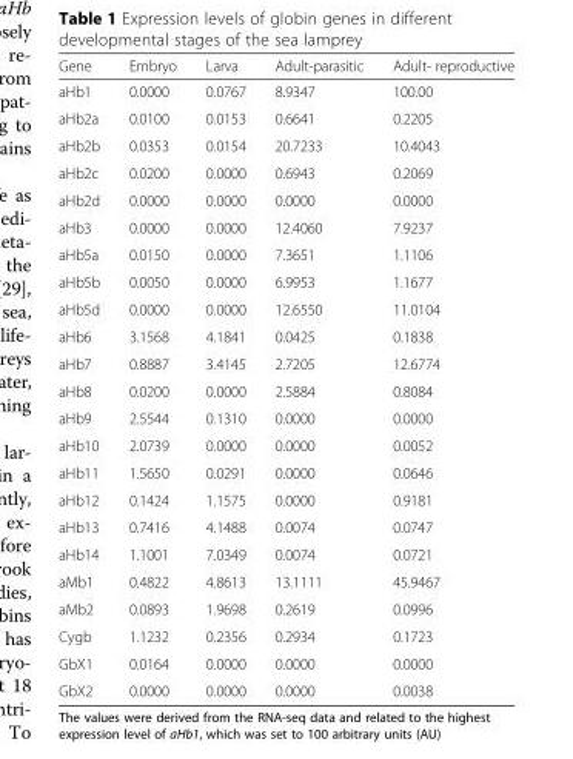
<table><thead><tr><td>Gene</td><td>Embryo</td><td>Larva</td><td>Adult-parasitic</td><td>Adult- reproductive</td></tr></thead><tbody><tr><td>aHb1</td><td>0.0000</td><td>0.0767</td><td>8.9347</td><td>100.00</td></tr><tr><td>aHb2a</td><td>0.0100</td><td>0.0153</td><td>0.6641</td><td>0.2205</td></tr><tr><td>aHb2b</td><td>0.0353</td><td>0.0154</td><td>20.7233</td><td>10.4043</td></tr><tr><td>aHb2c</td><td>0.0200</td><td>0.0000</td><td>0.6943</td><td>0.2069</td></tr><tr><td>aHb2d</td><td>0.0000</td><td>0.0000</td><td>0.0000</td><td>0.0000</td></tr><tr><td>aHb3</td><td>0.0000</td><td>0.0000</td><td>12.4060</td><td>7.9237</td></tr><tr><td>aHb5a</td><td>0.0150</td><td>0.0000</td><td>7.3651</td><td>1.1106</td></tr><tr><td>aHb5b</td><td>0.0050</td><td>0.0000</td><td>6.9953</td><td>1.1677</td></tr><tr><td>aHb5d</td><td>0.0000</td><td>0.0000</td><td>12.6550</td><td>11.0104</td></tr><tr><td>aHb6</td><td>3.1568</td><td>4.1841</td><td>0.0425</td><td>0.1838</td></tr><tr><td>aHb7</td><td>0.8887</td><td>3.4145</td><td>2.7205</td><td>12.6774</td></tr><tr><td>aHb8</td><td>0.0200</td><td>0.0000</td><td>2.5884</td><td>0.8084</td></tr><tr><td>aHb9</td><td>2.5544</td><td>0.1310</td><td>0.0000</td><td>0.0000</td></tr><tr><td>aHb10</td><td>2.0739</td><td>0.0000</td><td>0.0000</td><td>0.0052</td></tr><tr><td>aHb11</td><td>1.5650</td><td>0.0291</td><td>0.0000</td><td>0.0646</td></tr><tr><td>aHb12</td><td>0.1424</td><td>1.1575</td><td>0.0000</td><td>0.9181</td></tr><tr><td>aHb13</td><td>0.7416</td><td>4.1488</td><td>0.0074</td><td>0.0747</td></tr><tr><td>aHb14</td><td>1.1001</td><td>7.0349</td><td>0.0074</td><td>0.0721</td></tr><tr><td>aMb1</td><td>0.4822</td><td>4.8613</td><td>13.1111</td><td>45.9467</td></tr><tr><td>aMb2</td><td>0.0893</td><td>1.9698</td><td>0.2619</td><td>0.0996</td></tr><tr><td>Cygb</td><td>1.1232</td><td>0.2356</td><td>0.2934</td><td>0.1723</td></tr><tr><td>GbX1</td><td>0.0164</td><td>0.0000</td><td>0.0000</td><td>0.0000</td></tr><tr><td>GbX2</td><td>0.0000</td><td>0.0000</td><td>0.0000</td><td>0.0038</td></tr></tbody></table>